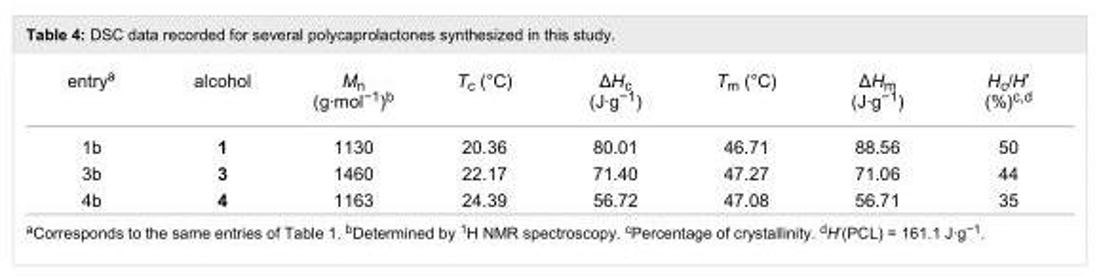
<table><tbody><tr><td>entry<sup>a</sup></td><td>alcohol</td><td>M<sub>n</sub> (g·mol<sup>−1</sup>)<sup>b</sup></td><td>T<sub>c</sub> (°C)</td><td>ΔH<sub>c</sub> (J·g<sup>−1</sup>)</td><td>T<sub>m</sub> (°C)</td><td>ΔH<sub>m</sub> (J·g<sup>−1</sup>)</td><td>H<sub>c</sub>/H’ (%)<sup>c,d</sup></td></tr><tr><td>1b</td><td>1</td><td>1130</td><td>20.36</td><td>80.01</td><td>46.71</td><td>88.56</td><td>50</td></tr><tr><td>3b</td><td>3</td><td>1460</td><td>22.17</td><td>71.40</td><td>47.27</td><td>71.06</td><td>44</td></tr><tr><td>4b</td><td>4</td><td>1163</td><td>24.39</td><td>56.72</td><td>47.08</td><td>56.71</td><td>35</td></tr></tbody></table>